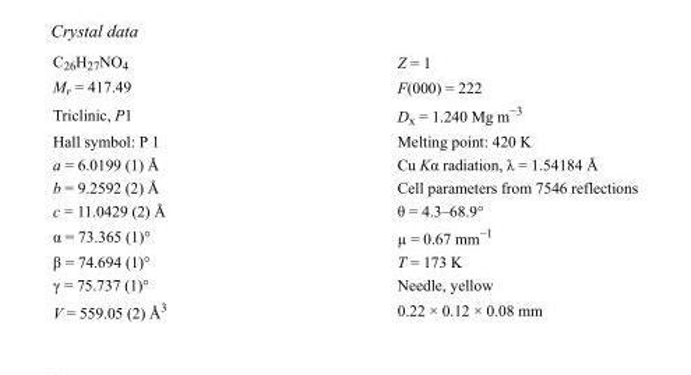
<table><tbody><tr><td>C<sub>26</sub>H<sub>27</sub>NO<sub>4</sub></td><td>Z = 1</td></tr><tr><td>M<sub>r</sub> = 417.49</td><td>F(000) = 222</td></tr><tr><td>Triclinic, P1</td><td>D<sub>x</sub> = 1.240 Mg m<sup>−3</sup></td></tr><tr><td>Hall symbol: P 1</td><td>Melting point: 420 K</td></tr><tr><td>a = 6.0199 (1) Å</td><td>Cu Kα radiation, λ = 1.54184 Å</td></tr><tr><td>b = 9.2592 (2) Å</td><td>Cell parameters from 7546 reflections</td></tr><tr><td>c = 11.0429 (2) Å</td><td>θ = 4.3–68.9°</td></tr><tr><td>α = 73.365 (1)°</td><td>µ = 0.67 mm<sup>−1</sup></td></tr><tr><td>β = 74.694 (1)°</td><td>T = 173 K</td></tr><tr><td>γ = 75.737 (1)°</td><td>Needle, yellow</td></tr><tr><td>V = 559.05 (2) Å3</td><td>0.22 × 0.12 × 0.08 mm</td></tr></tbody></table>